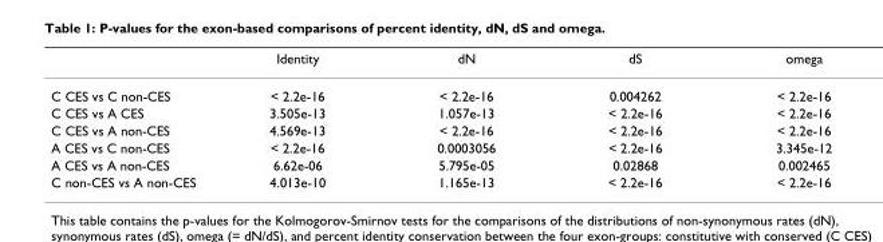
<table><thead><tr><td></td><td>Identity</td><td>dN</td><td>dS</td><td>omega</td></tr></thead><tbody><tr><td>C CES vs C non-CES</td><td>&lt; 2.2e-16</td><td>&lt; 2.2e-16</td><td>0.004262</td><td>&lt; 2.2e-16</td></tr><tr><td>C CES vs A CES</td><td>3.505e-13</td><td>1.057e-13</td><td>&lt; 2.2e-16</td><td>&lt; 2.2e-16</td></tr><tr><td>C CES vs A non-CES</td><td>4.569e-13</td><td>&lt; 2.2e-16</td><td>&lt; 2.2e-16</td><td>&lt; 2.2e-16</td></tr><tr><td>A CES vs C non-CES</td><td>&lt; 2.2e-16</td><td>0.0003056</td><td>&lt; 2.2e-16</td><td>3.345e-12</td></tr><tr><td>A CES vs A non-CES</td><td>6.62e-06</td><td>5.795e-05</td><td>0.02868</td><td>0.002465</td></tr><tr><td>C non-CES vs A non-CES</td><td>4.013e-10</td><td>1.165e-13</td><td>&lt; 2.2e-16</td><td>&lt; 2.2e-16</td></tr></tbody></table>